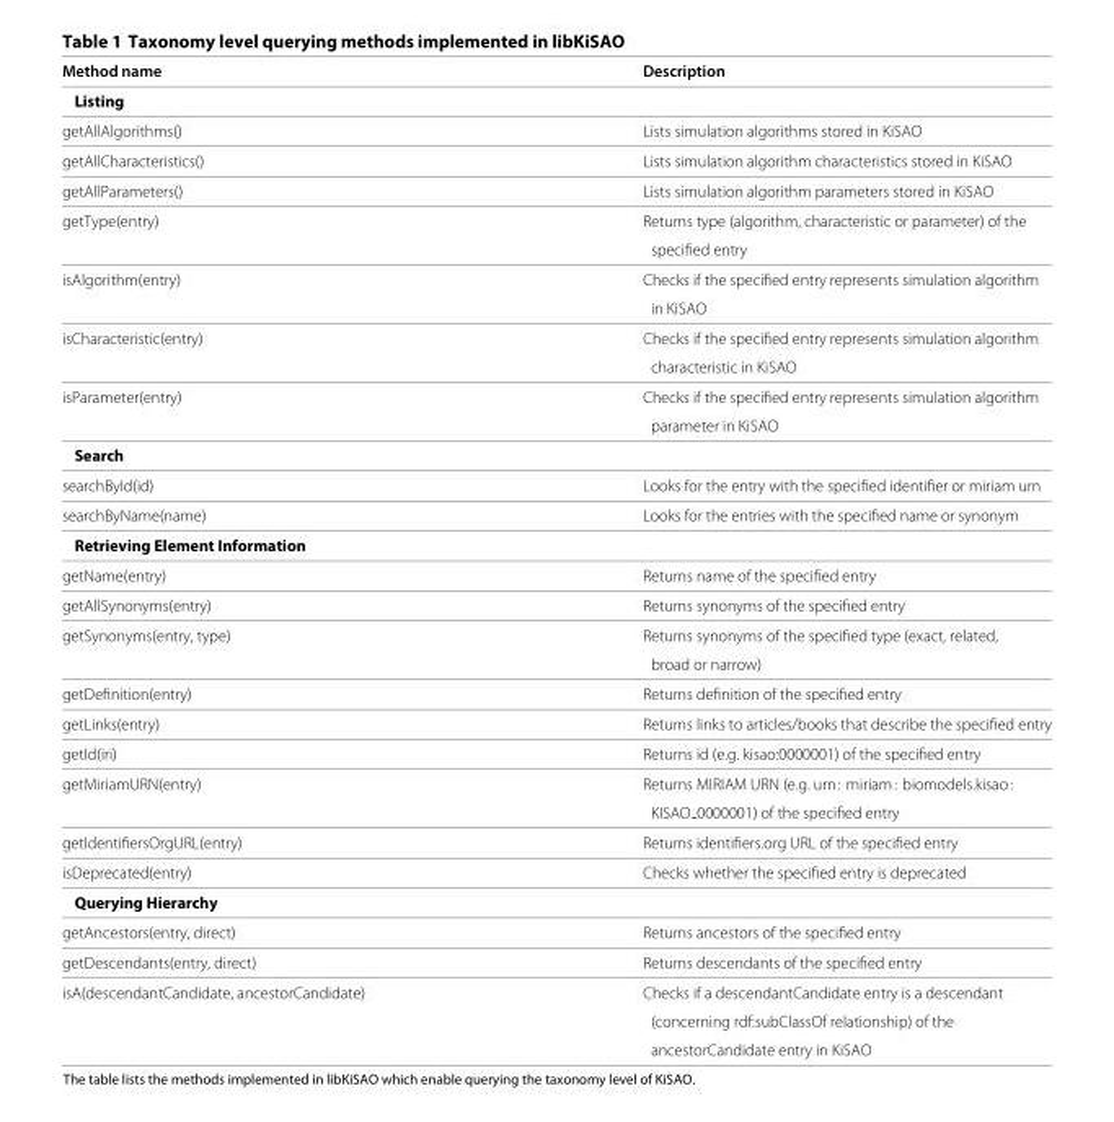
<table><thead><tr><td>Method name</td><td>Description</td></tr></thead><tbody><tr><td colspan="2">Listing</td></tr><tr><td>getAllAlgorithms()</td><td>Lists simulation algorithms stored in KiSAO</td></tr><tr><td>getAllCharacteristics()</td><td>Lists simulation algorithm characteristics stored in KiSAO</td></tr><tr><td>getAllParameters()</td><td>Lists simulation algorithm parameters stored in KiSAO</td></tr><tr><td rowspan="2">getType(entry)</td><td>Returns type (algorithm, characteristic or parameter) of the</td></tr><tr><td>specified entry</td></tr><tr><td rowspan="2">isAlgorithm(entry)</td><td>Checks if the specified entry represents simulation algorithm</td></tr><tr><td>in KiSAO</td></tr><tr><td rowspan="2">isCharacteristic(entry)</td><td>Checks if the specified entry represents simulation algorithm</td></tr><tr><td>characteristic in KiSAO</td></tr><tr><td rowspan="2">isParameter(entry)</td><td>Checks if the specified entry represents simulation algorithm</td></tr><tr><td>parameter in KiSAO</td></tr><tr><td colspan="2">Search</td></tr><tr><td>searchById(id)</td><td>Looks for the entry with the specified identifier or miriam urn</td></tr><tr><td>searchByName(name)</td><td>Looks for the entries with the specified name or synonym</td></tr><tr><td colspan="2">Retrieving Element Information</td></tr><tr><td>getName(entry)</td><td>Returns name of the specified entry</td></tr><tr><td>getAllSynonyms(entry)</td><td>Returns synonyms of the specified entry</td></tr><tr><td rowspan="2">getSynonyms(entry, type)</td><td>Returns synonyms of the specified type (exact, related,</td></tr><tr><td>broad or narrow)</td></tr><tr><td>getDefinition(entry)</td><td>Returns definition of the specified entry</td></tr><tr><td>getLinks(entry)</td><td>Returns links to articles/books that describe the specified entry</td></tr><tr><td>getId(iri)</td><td>Returns id (e.g. kisao:0000001) of the specified entry</td></tr><tr><td rowspan="2">getMiriamURN(entry)</td><td>Returns MIRIAM URN (e.g. urn: miriam: biomodels.kisao:</td></tr><tr><td>KISAO 0000001) of the specified entry</td></tr><tr><td>getIdentifiersOrgURL(entry)</td><td>Returns identifiers.org URL of the specified entry</td></tr><tr><td>isDeprecated(entry)</td><td>Checks whether the specified entry is deprecated</td></tr><tr><td colspan="2">Querying Hierarchy</td></tr><tr><td>getAncestors(entry, direct)</td><td>Returns ancestors of the specified entry</td></tr><tr><td>getDescendants(entry, direct)</td><td>Returns descendants of the specified entry</td></tr><tr><td rowspan="3">isA(descendantCandidate, ancestorCandidate)</td><td>Checks if a descendantCandidate entry is a descendant</td></tr><tr><td>(concerning rdf:subClassOf relationship) of the</td></tr><tr><td>ancestorCandidate entry in KiSAO</td></tr></tbody></table>